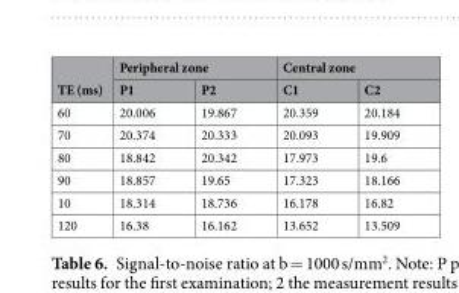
<table><thead><tr><td rowspan="2">TE (ms)</td><td colspan="2">Peripheral zone</td><td colspan="2">Central zone</td></tr><tr><td>P1</td><td>P2</td><td>C1</td><td>C2</td></tr></thead><tbody><tr><td>60</td><td>20.006</td><td>19.867</td><td>20.359</td><td>20.184</td></tr><tr><td>70</td><td>20.374</td><td>20.333</td><td>20.093</td><td>19.909</td></tr><tr><td>80</td><td>18.842</td><td>20.342</td><td>17.973</td><td>19.6</td></tr><tr><td>90</td><td>18.857</td><td>19.65</td><td>17.323</td><td>18.166</td></tr><tr><td>10</td><td>18.314</td><td>18.736</td><td>16.178</td><td>16.82</td></tr><tr><td>120</td><td>16.38</td><td>16.162</td><td>13.652</td><td>13.509</td></tr></tbody></table>